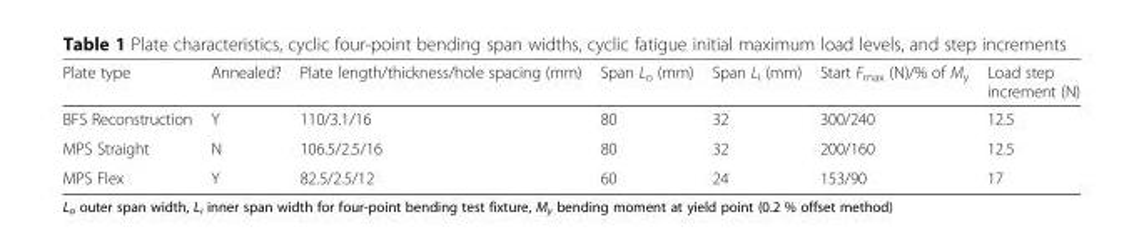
<table><thead><tr><td>Plate type</td><td>Annealed?</td><td>Plate length/thickness/hole spacing (mm)</td><td>Span L<sub>o</sub> (mm)</td><td>Span L<sub>i</sub> (mm)</td><td>Start F<sub>max</sub> (N)/% of M<sub>y</sub></td><td>Load step increment (N)</td></tr></thead><tbody><tr><td>BFS Reconstruction</td><td>Y</td><td>110/3.1/16</td><td>80</td><td>32</td><td>300/240</td><td>12.5</td></tr><tr><td>MPS Straight</td><td>N</td><td>106.5/2.5/16</td><td>80</td><td>32</td><td>200/160</td><td>12.5</td></tr><tr><td>MPS Flex</td><td>Y</td><td>82.5/2.5/12</td><td>60</td><td>24</td><td>153/90</td><td>17</td></tr></tbody></table>